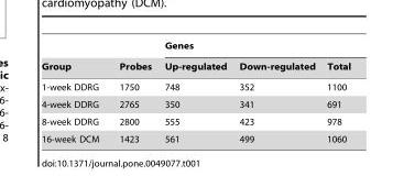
<table><thead><tr><td rowspan="2">Group</td><td rowspan="2">Probes</td><td colspan="3">Genes</td></tr><tr><td>Up-regulated</td><td>Down-regulated</td><td>Total</td></tr></thead><tbody><tr><td>1-week DDRG</td><td>1750</td><td>748</td><td>352</td><td>1100</td></tr><tr><td>4-week DDRG</td><td>2765</td><td>350</td><td>341</td><td>691</td></tr><tr><td>8-week DDRG</td><td>2800</td><td>555</td><td>423</td><td>978</td></tr><tr><td>16-week DCM</td><td>1423</td><td>561</td><td>499</td><td>1060</td></tr></tbody></table>